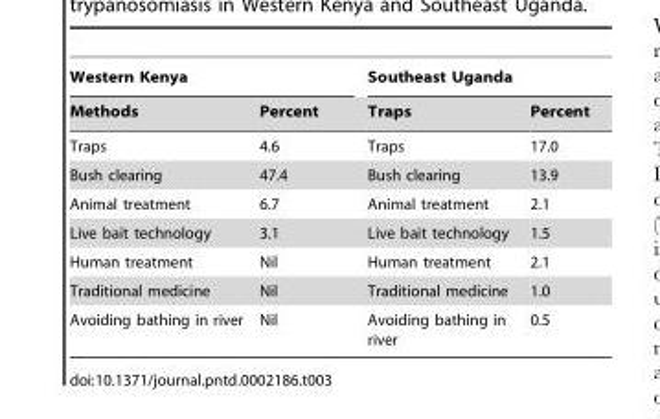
<table><thead><tr><td colspan="2">Western Kenya</td><td colspan="2">Southeast Uganda</td></tr><tr><td>Methods</td><td>Percent</td><td>Traps</td><td>Percent</td></tr></thead><tbody><tr><td>Traps</td><td>4.6</td><td>Traps</td><td>17.0</td></tr><tr><td>Bush clearing</td><td>47.4</td><td>Bush clearing</td><td>13.9</td></tr><tr><td>Animal treatment</td><td>6.7</td><td>Animal treatment</td><td>2.1</td></tr><tr><td>Live bait technology</td><td>3.1</td><td>Live bait technology</td><td>1.5</td></tr><tr><td>Human treatment</td><td>Nil</td><td>Human treatment</td><td>2.1</td></tr><tr><td>Traditional medicine</td><td>Nil</td><td>Traditional medicine</td><td>1.0</td></tr><tr><td>Avoiding bathing in river</td><td>Nil</td><td>Avoiding bathing in river</td><td>0.5</td></tr></tbody></table>